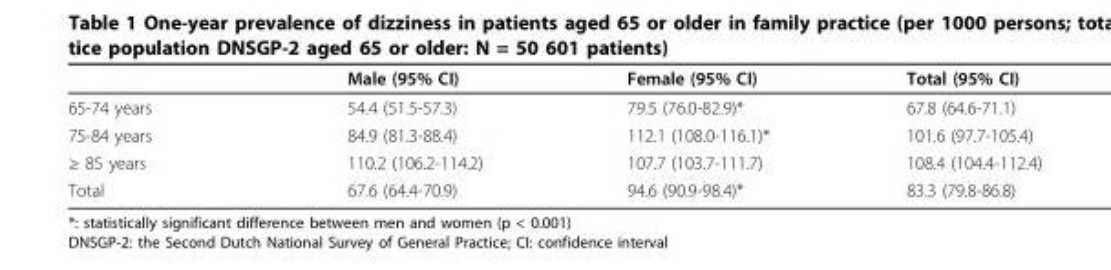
<table><thead><tr><td></td><td>Male (95% CI)</td><td>Female (95% CI)</td><td>Total (95% CI)</td></tr></thead><tbody><tr><td>65-74 years</td><td>54.4 (51.5-57.3)</td><td>79.5 (76.0-82.9)*</td><td>67.8 (64.6-71.1)</td></tr><tr><td>75-84 years</td><td>84.9 (81.3-88.4)</td><td>112.1 (108.0-116.1)*</td><td>101.6 (97.7-105.4)</td></tr><tr><td>≥ 85 years</td><td>110.2 (106.2-114.2)</td><td>107.7 (103.7-111.7)</td><td>108.4 (104.4-112.4)</td></tr><tr><td>Total</td><td>67.6 (64.4-70.9)</td><td>94.6 (90.9-98.4)*</td><td>83.3 (79.8-86.8)</td></tr></tbody></table>